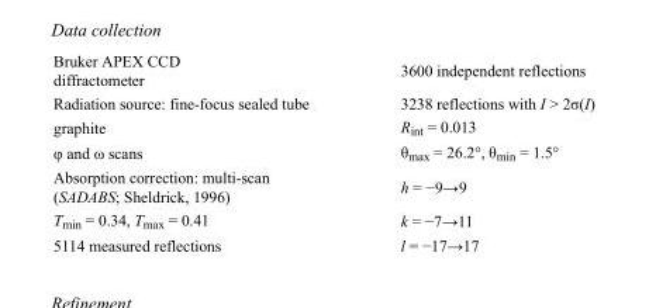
<table><tbody><tr><td>Bruker APEX CCD diffractometer</td><td>3600 independent reflections</td></tr><tr><td>Radiation source: fine-focus sealed tube</td><td>3238 reflections with I &gt; 2σ(I)</td></tr><tr><td>graphite</td><td>R<sub>int</sub> = 0.013</td></tr><tr><td>φ and ω scans</td><td>θ<sub>max</sub> = 26.2°, θ<sub>min</sub> = 1.5°</td></tr><tr><td>Absorption correction: multi-scan (SADABS; Sheldrick, 1996)</td><td>h = −9→9</td></tr><tr><td>T<sub>min</sub> = 0.34, T<sub>max</sub> = 0.41</td><td>k = −7→11</td></tr><tr><td>5114 measured reflections</td><td>l = −17→17</td></tr></tbody></table>